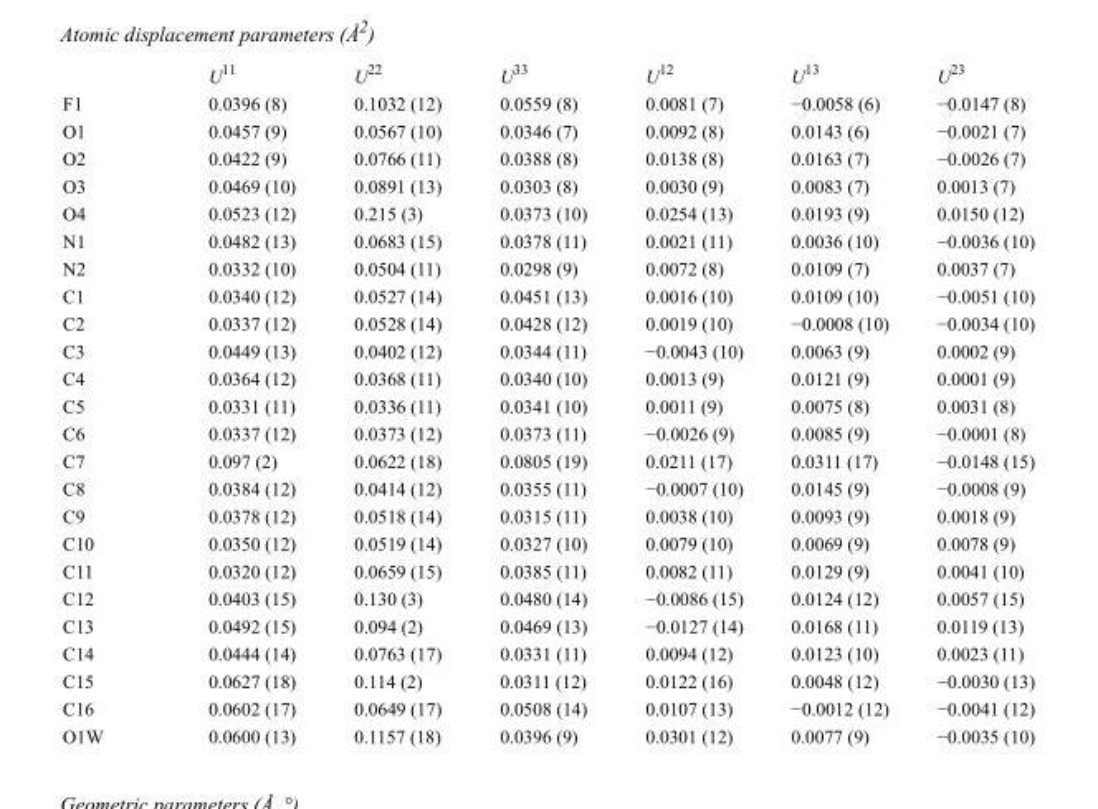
<table><thead><tr><td></td><td>U<sup>11</sup></td><td>U<sup>22</sup></td><td>U<sup>33</sup></td><td>U<sup>12</sup></td><td>U<sup>13</sup></td><td>U<sup>23</sup></td></tr></thead><tbody><tr><td>F1</td><td>0.0396 (8)</td><td>0.1032 (12)</td><td>0.0559 (8)</td><td>0.0081 (7)</td><td>−0.0058 (6)</td><td>−0.0147 (8)</td></tr><tr><td>O1</td><td>0.0457 (9)</td><td>0.0567 (10)</td><td>0.0346 (7)</td><td>0.0092 (8)</td><td>0.0143 (6)</td><td>−0.0021 (7)</td></tr><tr><td>O2</td><td>0.0422 (9)</td><td>0.0766 (11)</td><td>0.0388 (8)</td><td>0.0138 (8)</td><td>0.0163 (7)</td><td>−0.0026 (7)</td></tr><tr><td>O3</td><td>0.0469 (10)</td><td>0.0891 (13)</td><td>0.0303 (8)</td><td>0.0030 (9)</td><td>0.0083 (7)</td><td>0.0013 (7)</td></tr><tr><td>O4</td><td>0.0523 (12)</td><td>0.215 (3)</td><td>0.0373 (10)</td><td>0.0254 (13)</td><td>0.0193 (9)</td><td>0.0150 (12)</td></tr><tr><td>N1</td><td>0.0482 (13)</td><td>0.0683 (15)</td><td>0.0378 (11)</td><td>0.0021 (11)</td><td>0.0036 (10)</td><td>−0.0036 (10)</td></tr><tr><td>N2</td><td>0.0332 (10)</td><td>0.0504 (11)</td><td>0.0298 (9)</td><td>0.0072 (8)</td><td>0.0109 (7)</td><td>0.0037 (7)</td></tr><tr><td>C1</td><td>0.0340 (12)</td><td>0.0527 (14)</td><td>0.0451 (13)</td><td>0.0016 (10)</td><td>0.0109 (10)</td><td>−0.0051 (10)</td></tr><tr><td>C2</td><td>0.0337 (12)</td><td>0.0528 (14)</td><td>0.0428 (12)</td><td>0.0019 (10)</td><td>−0.0008 (10)</td><td>−0.0034 (10)</td></tr><tr><td>C3</td><td>0.0449 (13)</td><td>0.0402 (12)</td><td>0.0344 (11)</td><td>−0.0043 (10)</td><td>0.0063 (9)</td><td>0.0002 (9)</td></tr><tr><td>C4</td><td>0.0364 (12)</td><td>0.0368 (11)</td><td>0.0340 (10)</td><td>0.0013 (9)</td><td>0.0121 (9)</td><td>0.0001 (9)</td></tr><tr><td>C5</td><td>0.0331 (11)</td><td>0.0336 (11)</td><td>0.0341 (10)</td><td>0.0011 (9)</td><td>0.0075 (8)</td><td>0.0031 (8)</td></tr><tr><td>C6</td><td>0.0337 (12)</td><td>0.0373 (12)</td><td>0.0373 (11)</td><td>−0.0026 (9)</td><td>0.0085 (9)</td><td>−0.0001 (8)</td></tr><tr><td>C7</td><td>0.097 (2)</td><td>0.0622 (18)</td><td>0.0805 (19)</td><td>0.0211 (17)</td><td>0.0311 (17)</td><td>−0.0148 (15)</td></tr><tr><td>C8</td><td>0.0384 (12)</td><td>0.0414 (12)</td><td>0.0355 (11)</td><td>−0.0007 (10)</td><td>0.0145 (9)</td><td>−0.0008 (9)</td></tr><tr><td>C9</td><td>0.0378 (12)</td><td>0.0518 (14)</td><td>0.0315 (11)</td><td>0.0038 (10)</td><td>0.0093 (9)</td><td>0.0018 (9)</td></tr><tr><td>C10</td><td>0.0350 (12)</td><td>0.0519 (14)</td><td>0.0327 (10)</td><td>0.0079 (10)</td><td>0.0069 (9)</td><td>0.0078 (9)</td></tr><tr><td>C11</td><td>0.0320 (12)</td><td>0.0659 (15)</td><td>0.0385 (11)</td><td>0.0082 (11)</td><td>0.0129 (9)</td><td>0.0041 (10)</td></tr><tr><td>C12</td><td>0.0403 (15)</td><td>0.130 (3)</td><td>0.0480 (14)</td><td>−0.0086 (15)</td><td>0.0124 (12)</td><td>0.0057 (15)</td></tr><tr><td>C13</td><td>0.0492 (15)</td><td>0.094 (2)</td><td>0.0469 (13)</td><td>−0.0127 (14)</td><td>0.0168 (11)</td><td>0.0119 (13)</td></tr><tr><td>C14</td><td>0.0444 (14)</td><td>0.0763 (17)</td><td>0.0331 (11)</td><td>0.0094 (12)</td><td>0.0123 (10)</td><td>0.0023 (11)</td></tr><tr><td>C15</td><td>0.0627 (18)</td><td>0.114 (2)</td><td>0.0311 (12)</td><td>0.0122 (16)</td><td>0.0048 (12)</td><td>−0.0030 (13)</td></tr><tr><td>C16</td><td>0.0602 (17)</td><td>0.0649 (17)</td><td>0.0508 (14)</td><td>0.0107 (13)</td><td>−0.0012 (12)</td><td>−0.0041 (12)</td></tr><tr><td>O1W</td><td>0.0600 (13)</td><td>0.1157 (18)</td><td>0.0396 (9)</td><td>0.0301 (12)</td><td>0.0077 (9)</td><td>−0.0035 (10)</td></tr></tbody></table>